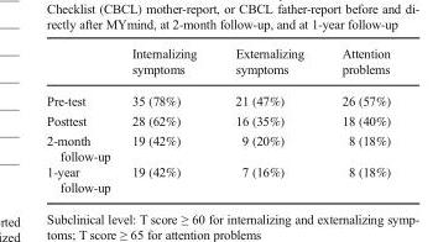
<table><thead><tr><td></td><td>Internalizing symptoms</td><td>Externalizing symptoms</td><td>Attention problems</td></tr></thead><tbody><tr><td>Pre-test</td><td>35 (78%)</td><td>21 (47%)</td><td>26 (57%)</td></tr><tr><td>Posttest</td><td>28 (62%)</td><td>16 (35%)</td><td>18 (40%)</td></tr><tr><td>2-month follow-up</td><td>19 (42%)</td><td>9 (20%)</td><td>8 (18%)</td></tr><tr><td>1-year follow-up</td><td>19 (42%)</td><td>7 (16%)</td><td>8 (18%)</td></tr></tbody></table>